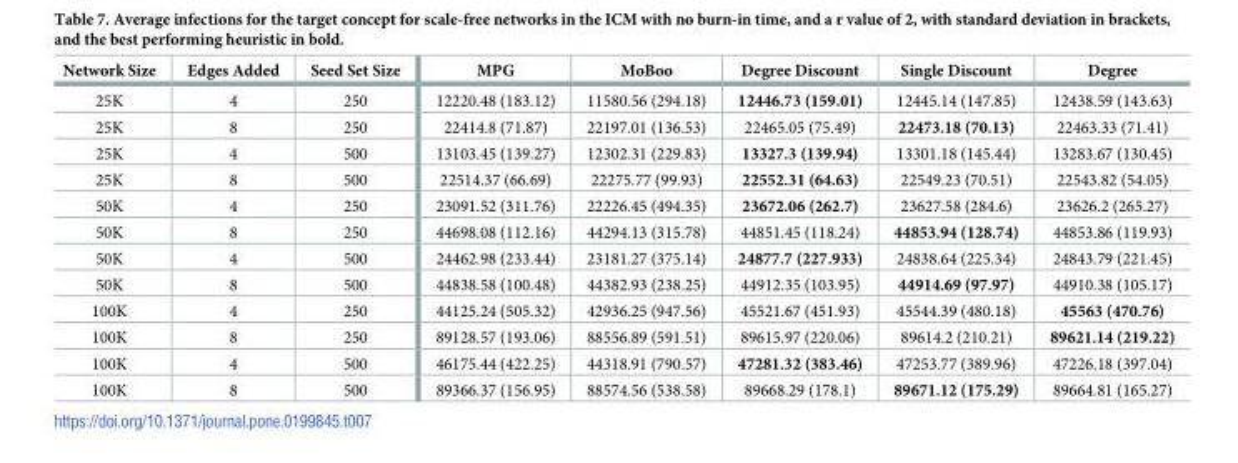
<table><thead><tr><td>Network Size</td><td>Edges Added</td><td>Seed Set Size</td><td>MPG</td><td>MoBoo</td><td>Degree Discount</td><td>Single Discount</td><td>Degree</td></tr></thead><tbody><tr><td>25K</td><td>4</td><td>250</td><td>12220.48 (183.12)</td><td>11580.56 (294.18)</td><td>12446.73 (159.01)</td><td>12445.14 (147.85)</td><td>12438.59 (143.63)</td></tr><tr><td>25K</td><td>8</td><td>250</td><td>22414.8 (71.87)</td><td>22197.01 (136.53)</td><td>22465.05 (75.49)</td><td>22473.18 (70.13)</td><td>22463.33 (71.41)</td></tr><tr><td>25K</td><td>4</td><td>500</td><td>13103.45 (139.27)</td><td>12302.31 (229.83)</td><td>13327.3 (139.94)</td><td>13301.18 (145.44)</td><td>13283.67 (130.45)</td></tr><tr><td>25K</td><td>8</td><td>500</td><td>22514.37 (66.69)</td><td>22275.77 (99.93)</td><td>22552.31 (64.63)</td><td>22549.23 (70.51)</td><td>22543.82 (54.05)</td></tr><tr><td>50K</td><td>4</td><td>250</td><td>23091.52 (311.76)</td><td>22226.45 (494.35)</td><td>23672.06 (262.7)</td><td>23627.58 (284.6)</td><td>23626.2 (265.27)</td></tr><tr><td>50K</td><td>8</td><td>250</td><td>44698.08 (112.16)</td><td>44294.13 (315.78)</td><td>44851.45 (118.24)</td><td>44853.94 (128.74)</td><td>44853.86 (119.93)</td></tr><tr><td>50K</td><td>4</td><td>500</td><td>24462.98 (233.44)</td><td>23181.27 (375.14)</td><td>24877.7 (227.933)</td><td>24838.64 (225.34)</td><td>24843.79 (221.45)</td></tr><tr><td>50K</td><td>8</td><td>500</td><td>44838.58 (100.48)</td><td>44382.93 (238.25)</td><td>44912.35 (103.95)</td><td>44914.69 (97.97)</td><td>44910.38 (105.17)</td></tr><tr><td>100K</td><td>4</td><td>250</td><td>44125.24 (505.32)</td><td>42936.25 (947.56)</td><td>45521.67 (451.93)</td><td>45544.39 (480.18)</td><td>45563 (470.76)</td></tr><tr><td>100K</td><td>8</td><td>250</td><td>89128.57 (193.06)</td><td>88556.89 (591.51)</td><td>89615.97 (220.06)</td><td>89614.2 (210.21)</td><td>89621.14 (219.22)</td></tr><tr><td>100K</td><td>4</td><td>500</td><td>46175.44 (422.25)</td><td>44318.91 (790.57)</td><td>47281.32 (383.46)</td><td>47253.77 (389.96)</td><td>47226.18 (397.04)</td></tr><tr><td>100K</td><td>8</td><td>500</td><td>89366.37 (156.95)</td><td>88574.56 (538.58)</td><td>89668.29 (178.1)</td><td>89671.12 (175.29)</td><td>89664.81 (165.27)</td></tr></tbody></table>